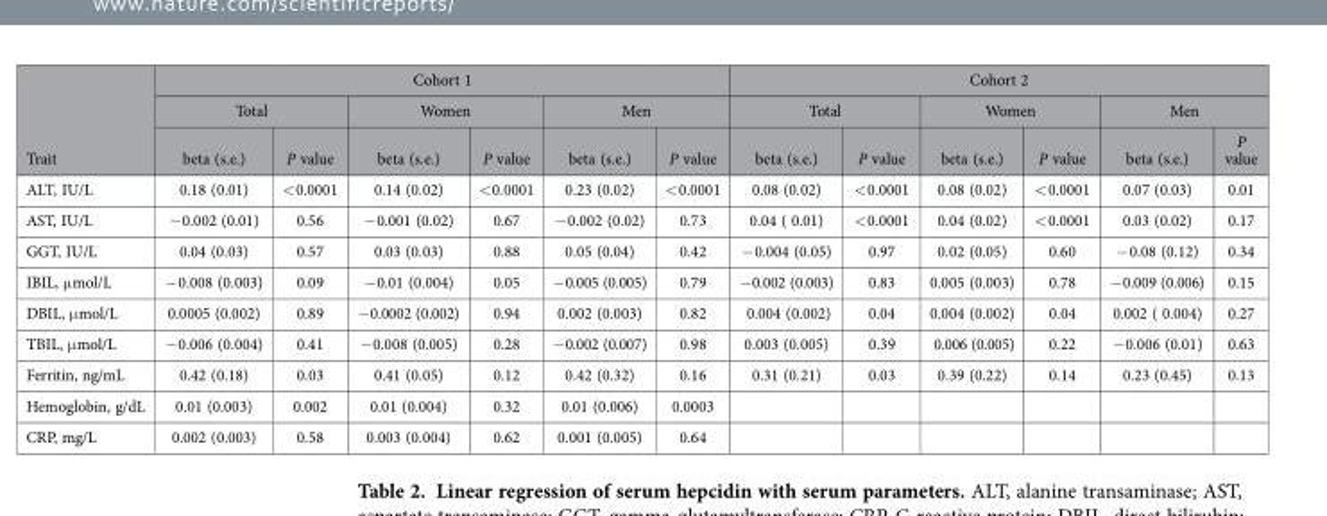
<table><thead><tr><td rowspan="3">Trait</td><td colspan="6">Cohort 1</td><td colspan="6">Cohort 2</td></tr><tr><td colspan="2">Total</td><td colspan="2">Women</td><td colspan="2">Men</td><td colspan="2">Total</td><td colspan="2">Women</td><td colspan="2">Men</td></tr><tr><td>beta (s.e.)</td><td>P value</td><td>beta (s.e.)</td><td>P value</td><td>beta (s.e.)</td><td>P value</td><td>beta (s.e.)</td><td>P value</td><td>beta (s.e.)</td><td>P value</td><td>beta (s.e.)</td><td>P value</td></tr></thead><tbody><tr><td>ALT, IU/L</td><td>0.18 (0.01)</td><td>&lt; 0.0001</td><td>0.14 (0.02)</td><td>&lt; 0.0001</td><td>0.23 (0.02)</td><td>&lt; 0.0001</td><td>0.08 (0.02)</td><td>&lt; 0.0001</td><td>0.08 (0.02)</td><td>&lt; 0.0001</td><td>0.07 (0.03)</td><td>0.01</td></tr><tr><td>AST, IU/L</td><td>− 0.002 (0.01)</td><td>0.56</td><td>− 0.001 (0.02)</td><td>0.67</td><td>− 0.002 (0.02)</td><td>0.73</td><td>0.04 ( 0.01)</td><td>&lt; 0.0001</td><td>0.04 (0.02)</td><td>&lt; 0.0001</td><td>0.03 (0.02)</td><td>0.17</td></tr><tr><td>GGT, IU/L</td><td>0.04 (0.03)</td><td>0.57</td><td>0.03 (0.03)</td><td>0.88</td><td>0.05 (0.04)</td><td>0.42</td><td>− 0.004 (0.05)</td><td>0.97</td><td>0.02 (0.05)</td><td>0.60</td><td>− 0.08 (0.12)</td><td>0.34</td></tr><tr><td>IBIL, μ mol/L</td><td>− 0.008 (0.003)</td><td>0.09</td><td>− 0.01 (0.004)</td><td>0.05</td><td>− 0.005 (0.005)</td><td>0.79</td><td>− 0.002 (0.003)</td><td>0.83</td><td>0.005 (0.003)</td><td>0.78</td><td>− 0.009 (0.006)</td><td>0.15</td></tr><tr><td>DBIL, μ mol/L</td><td>0.0005 (0.002)</td><td>0.89</td><td>− 0.0002 (0.002)</td><td>0.94</td><td>0.002 (0.003)</td><td>0.82</td><td>0.004 (0.002)</td><td>0.04</td><td>0.004 (0.002)</td><td>0.04</td><td>0.002 ( 0.004)</td><td>0.27</td></tr><tr><td>TBIL, μ mol/L</td><td>− 0.006 (0.004)</td><td>0.41</td><td>− 0.008 (0.005)</td><td>0.28</td><td>− 0.002 (0.007)</td><td>0.98</td><td>0.003 (0.005)</td><td>0.39</td><td>0.006 (0.005)</td><td>0.22</td><td>− 0.006 (0.01)</td><td>0.63</td></tr><tr><td>Ferritin, ng/mL</td><td>0.42 (0.18)</td><td>0.03</td><td>0.41 (0.05)</td><td>0.12</td><td>0.42 (0.32)</td><td>0.16</td><td>0.31 (0.21)</td><td>0.03</td><td>0.39 (0.22)</td><td>0.14</td><td>0.23 (0.45)</td><td>0.13</td></tr><tr><td>Hemoglobin, g/dL</td><td>0.01 (0.003)</td><td>0.002</td><td>0.01 (0.004)</td><td>0.32</td><td>0.01 (0.006)</td><td>0.0003</td><td></td><td></td><td></td><td></td><td></td><td></td></tr><tr><td>CRP, mg/L</td><td>0.002 (0.003)</td><td>0.58</td><td>0.003 (0.004)</td><td>0.62</td><td>0.001 (0.005)</td><td>0.64</td><td></td><td></td><td></td><td></td><td></td><td></td></tr></tbody></table>